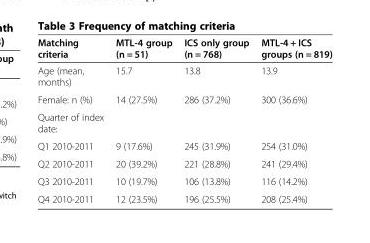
<table><thead><tr><td>Matching criteria</td><td>MTL-4 group (n = 51)</td><td>ICS only group (n = 768)</td><td>MTL-4 + ICS groups (n = 819)</td></tr></thead><tbody><tr><td>Age (mean, months)</td><td>15.7</td><td>13.8</td><td>13.9</td></tr><tr><td>Female: n (%)</td><td>14 (27.5%)</td><td>286 (37.2%)</td><td>300 (36.6%)</td></tr><tr><td colspan="4">Quarter of index date:</td></tr><tr><td>Q1 2010-2011</td><td>9 (17.6%)</td><td>245 (31.9%)</td><td>254 (31.0%)</td></tr><tr><td>Q2 2010-2011</td><td>20 (39.2%)</td><td>221 (28.8%)</td><td>241 (29.4%)</td></tr><tr><td>Q3 2010-2011</td><td>10 (19.7%)</td><td>106 (13.8%)</td><td>116 (14.2%)</td></tr><tr><td>Q4 2010-2011</td><td>12 (23.5%)</td><td>196 (25.5%)</td><td>208 (25.4%)</td></tr></tbody></table>